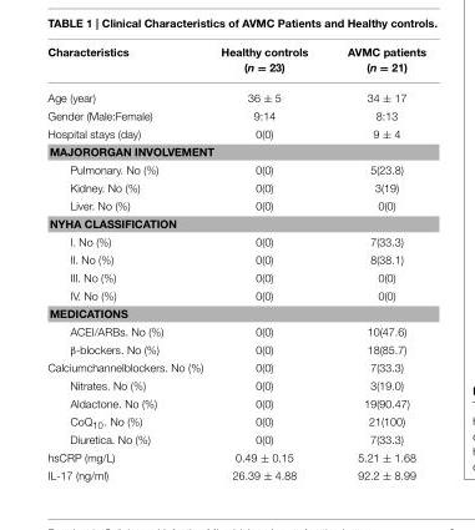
<table><thead><tr><td>Characteristics</td><td>Healthy controls (n = 23)</td><td>AVMC patients (n = 21)</td></tr></thead><tbody><tr><td>Age (year)</td><td>36 ± 5</td><td>34 ± 17</td></tr><tr><td>Gender (Male:Female)</td><td>9:14</td><td>8:13</td></tr><tr><td>Hospital stays (day)</td><td>0(0)</td><td>9 ± 4</td></tr><tr><td colspan="3">MAJORORGAN INVOLVEMENT</td></tr><tr><td>Pulmonary. No (%)</td><td>0(0)</td><td>5(23.8)</td></tr><tr><td>Kidney. No (%)</td><td>0(0)</td><td>3(19)</td></tr><tr><td>Liver. No (%)</td><td>0(0)</td><td>0(0)</td></tr><tr><td colspan="3">NYHA CLASSIFICATION</td></tr><tr><td>I. No (%)</td><td>0(0)</td><td>7(33.3)</td></tr><tr><td>II. No (%)</td><td>0(0)</td><td>8(38.1)</td></tr><tr><td>III. No (%)</td><td>0(0)</td><td>0(0)</td></tr><tr><td>IV. No (%)</td><td>0(0)</td><td>0(0)</td></tr><tr><td colspan="3">MEDICATIONS</td></tr><tr><td>ACEI/ARBs. No (%)</td><td>0(0)</td><td>10(47.6)</td></tr><tr><td>β-blockers. No (%)</td><td>0(0)</td><td>18(85.7)</td></tr><tr><td>Calciumchannelblockers. No (%)</td><td>0(0)</td><td>7(33.3)</td></tr><tr><td>Nitrates. No (%)</td><td>0(0)</td><td>3(19.0)</td></tr><tr><td>Aldactone. No (%)</td><td>0(0)</td><td>19(90.47)</td></tr><tr><td>CoQ<sub>10</sub>. No (%)</td><td>0(0)</td><td>21(100)</td></tr><tr><td>Diuretica. No (%)</td><td>0(0)</td><td>7(33.3)</td></tr><tr><td>hsCRP (mg/L)</td><td>0.49 ± 0.15</td><td>5.21 ± 1.68</td></tr><tr><td>IL-17 (ng/ml)</td><td>26.39 ± 4.88</td><td>92.2 ± 8.99</td></tr></tbody></table>